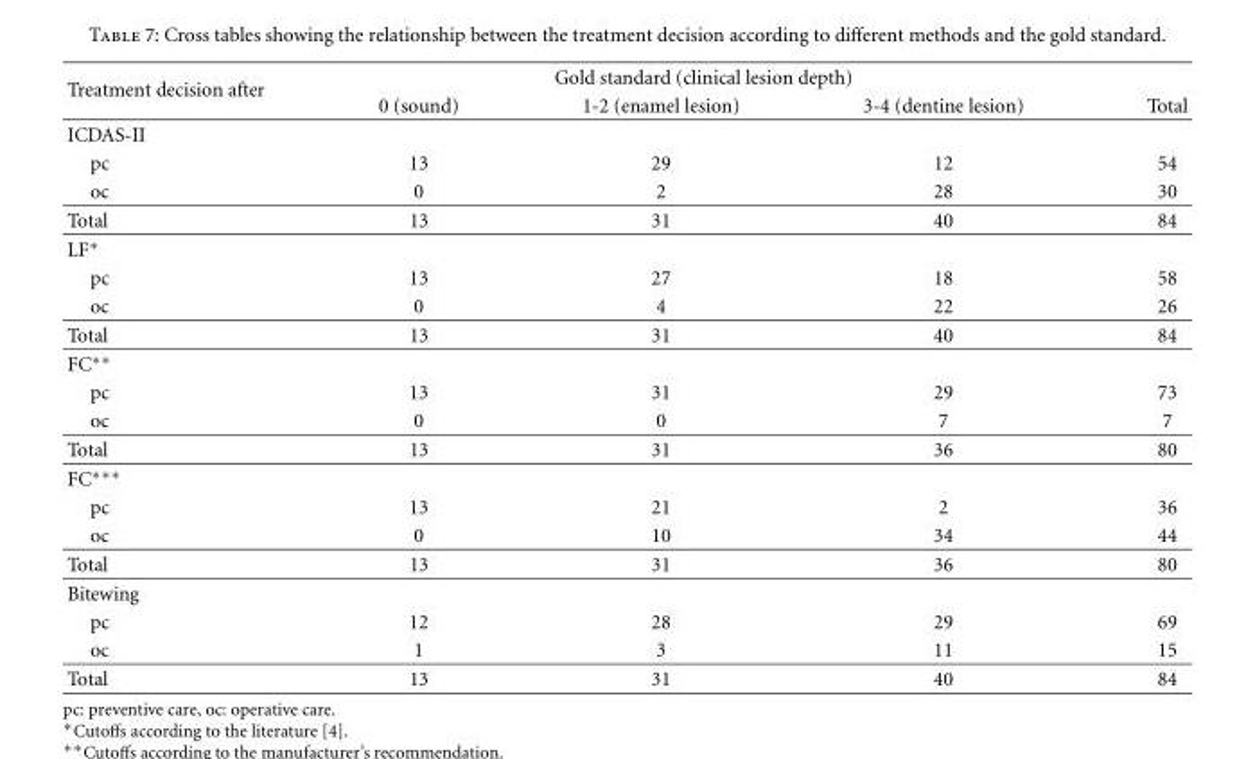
<table><thead><tr><td rowspan="2">Treatment decision after</td><td colspan="3">Gold standard (clinical lesion depth)</td><td rowspan="2">Total</td></tr><tr><td>0 (sound)</td><td>1-2 (enamel lesion)</td><td>3-4 (dentine lesion)</td></tr></thead><tbody><tr><td colspan="5">ICDAS-II</td></tr><tr><td>pc</td><td>13</td><td>29</td><td>12</td><td>54</td></tr><tr><td>oc</td><td>0</td><td>2</td><td>28</td><td>30</td></tr><tr><td>Total</td><td>13</td><td>31</td><td>40</td><td>84</td></tr><tr><td colspan="5">LF∗</td></tr><tr><td>pc</td><td>13</td><td>27</td><td>18</td><td>58</td></tr><tr><td>oc</td><td>0</td><td>4</td><td>22</td><td>26</td></tr><tr><td>Total</td><td>13</td><td>31</td><td>40</td><td>84</td></tr><tr><td colspan="5">FC∗∗</td></tr><tr><td>pc</td><td>13</td><td>31</td><td>29</td><td>73</td></tr><tr><td>oc</td><td>0</td><td>0</td><td>7</td><td>7</td></tr><tr><td>Total</td><td>13</td><td>31</td><td>36</td><td>80</td></tr><tr><td colspan="5">FC∗∗∗</td></tr><tr><td>pc</td><td>13</td><td>21</td><td>2</td><td>36</td></tr><tr><td>oc</td><td>0</td><td>10</td><td>34</td><td>44</td></tr><tr><td>Total</td><td>13</td><td>31</td><td>36</td><td>80</td></tr><tr><td colspan="5">Bitewing</td></tr><tr><td>pc</td><td>12</td><td>28</td><td>29</td><td>69</td></tr><tr><td>oc</td><td>1</td><td>3</td><td>11</td><td>15</td></tr><tr><td>Total</td><td>13</td><td>31</td><td>40</td><td>84</td></tr></tbody></table>